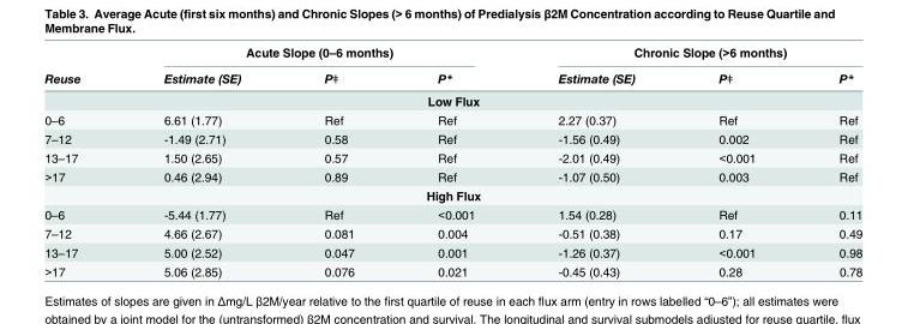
<table><thead><tr><td rowspan="2">Reuse</td><td colspan="3">Acute Slope (0–6 months)</td><td colspan="3">Chronic Slope (&gt;6 months)</td></tr><tr><td>Estimate (SE)</td><td>Pǂ</td><td>P*</td><td>Estimate (SE)</td><td>Pǂ</td><td>P*</td></tr></thead><tbody><tr><td colspan="7">Low Flux</td></tr><tr><td>0–6</td><td>6.61 (1.77)</td><td>Ref</td><td>Ref</td><td>2.27 (0.37)</td><td>Ref</td><td>Ref</td></tr><tr><td>7–12</td><td>-1.49 (2.71)</td><td>0.58</td><td>Ref</td><td>-1.56 (0.49)</td><td>0.002</td><td>Ref</td></tr><tr><td>13–17</td><td>1.50 (2.65)</td><td>0.57</td><td>Ref</td><td>-2.01 (0.49)</td><td>&lt;0.001</td><td>Ref</td></tr><tr><td>&gt;17</td><td>0.46 (2.94)</td><td>0.89</td><td>Ref</td><td>-1.07 (0.50)</td><td>0.003</td><td>Ref</td></tr><tr><td colspan="7">High Flux</td></tr><tr><td>0–6</td><td>-5.44 (1.77)</td><td>Ref</td><td>&lt;0.001</td><td>1.54 (0.28)</td><td>Ref</td><td>0.11</td></tr><tr><td>7–12</td><td>4.66 (2.67)</td><td>0.081</td><td>0.004</td><td>-0.51 (0.38)</td><td>0.17</td><td>0.49</td></tr><tr><td>13–17</td><td>5.00 (2.52)</td><td>0.047</td><td>0.001</td><td>-1.26 (0.37)</td><td>&lt;0.001</td><td>0.98</td></tr><tr><td>&gt;17</td><td>5.06 (2.85)</td><td>0.076</td><td>0.021</td><td>-0.45 (0.43)</td><td>0.28</td><td>0.78</td></tr></tbody></table>